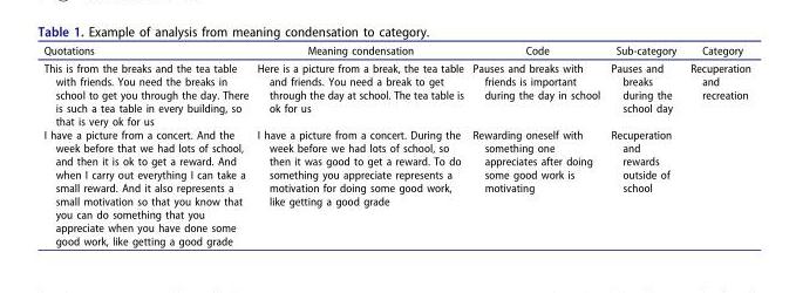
<table><thead><tr><td>Quotations</td><td>Meaning condensation</td><td>Code</td><td>Sub-category</td><td>Category</td></tr></thead><tbody><tr><td>This is from the breaks and the tea table with friends. You need the breaks in school to get you through the day. There is such a tea table in every building, so that is very ok for us</td><td>Here is a picture from a break, the tea table and friends. You need a break to get through the day at school. The tea table is ok for us</td><td>Pauses and breaks with friends is important during the day in school</td><td>Pauses and breaks during the school day</td><td rowspan="2">Recuperation and recreation</td></tr><tr><td>I have a picture from a concert. And the week before that we had lots of school, and then it is ok to get a reward. And when I carry out everything I can take a small reward. And it also represents a small motivation so that you know that you can do something that you appreciate when you have done some good work, like getting a good grade</td><td>I have a picture from a concert. During the week before we had lots of school, so then it was good to get a reward. To do something you appreciate represents a motivation for doing some good work, like getting a good grade</td><td>Rewarding oneself with something one appreciates after doing some good work is motivating</td><td>Recuperation and rewards outside of school</td></tr></tbody></table>